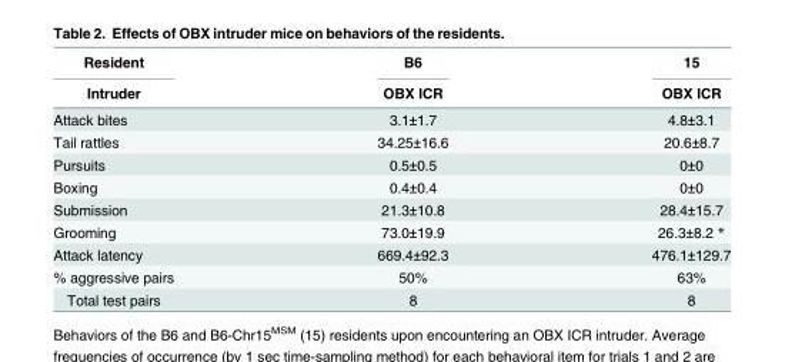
<table><thead><tr><td rowspan="2">Resident Intruder</td><td rowspan="2">B6 OBX ICR</td><td rowspan="2">15 OBX ICR</td></tr><tr></tr></thead><tbody><tr><td>Attack bites</td><td>3.1±1.7</td><td>4.8±3.1</td></tr><tr><td>Tail rattles</td><td>34.25±16.6</td><td>20.6±8.7</td></tr><tr><td>Pursuits</td><td>0.5±0.5</td><td>0±0</td></tr><tr><td>Boxing</td><td>0.4±0.4</td><td>0±0</td></tr><tr><td>Submission</td><td>21.3±10.8</td><td>28.4±15.7</td></tr><tr><td>Grooming</td><td>73.0±19.9</td><td>26.3±8.2 *</td></tr><tr><td>Attack latency</td><td>669.4±92.3</td><td>476.1±129.7</td></tr><tr><td>% aggressive pairs</td><td>50%</td><td>63%</td></tr><tr><td>Total test pairs</td><td>8</td><td>8</td></tr></tbody></table>